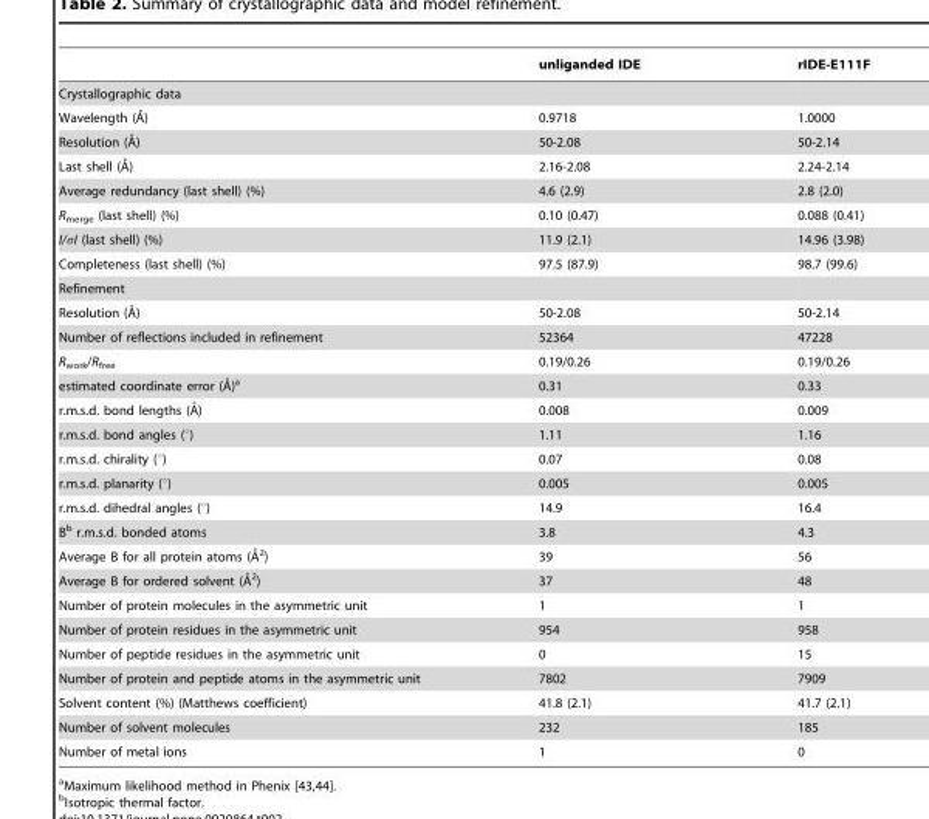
<table><thead><tr><td></td><td>unliganded IDE</td><td>rIDE-E111F</td></tr></thead><tbody><tr><td colspan="3">Crystallographic data</td></tr><tr><td>Wavelength (A˚)</td><td>0.9718</td><td>1.0000</td></tr><tr><td>Resolution (A˚)</td><td>50-2.08</td><td>50-2.14</td></tr><tr><td>Last shell (A˚)</td><td>2.16-2.08</td><td>2.24-2.14</td></tr><tr><td>Average redundancy (last shell) (%)</td><td>4.6 (2.9)</td><td>2.8 (2.0)</td></tr><tr><td>R<sub>merge</sub> (last shell) (%)</td><td>0.10 (0.47)</td><td>0.088 (0.41)</td></tr><tr><td>I/σI (last shell) (%)</td><td>11.9 (2.1)</td><td>14.96 (3.98)</td></tr><tr><td>Completeness (last shell) (%)</td><td>97.5 (87.9)</td><td>98.7 (99.6)</td></tr><tr><td colspan="3">Refinement</td></tr><tr><td>Resolution (A˚)</td><td>50-2.08</td><td>50-2.14</td></tr><tr><td>Number of reflections included in refinement</td><td>52364</td><td>47228</td></tr><tr><td>R<sub>work</sub>/R<sub>free</sub></td><td>0.19/0.26</td><td>0.19/0.26</td></tr><tr><td>estimated coordinate error (A˚)a</td><td>0.31</td><td>0.33</td></tr><tr><td>r.m.s.d. bond lengths (A˚)</td><td>0.008</td><td>0.009</td></tr><tr><td>r.m.s.d. bond angles (°)</td><td>1.11</td><td>1.16</td></tr><tr><td>r.m.s.d. chirality (°)</td><td>0.07</td><td>0.08</td></tr><tr><td>r.m.s.d. planarity (°)</td><td>0.005</td><td>0.005</td></tr><tr><td>r.m.s.d. dihedral angles (°)</td><td>14.9</td><td>16.4</td></tr><tr><td>B<sup>b</sup> r.m.s.d. bonded atoms</td><td>3.8</td><td>4.3</td></tr><tr><td>Average B for all protein atoms (A˚2)</td><td>39</td><td>56</td></tr><tr><td>Average B for ordered solvent (A˚ 2)</td><td>37</td><td>48</td></tr><tr><td>Number of protein molecules in the asymmetric unit</td><td>1</td><td>1</td></tr><tr><td>Number of protein residues in the asymmetric unit</td><td>954</td><td>958</td></tr><tr><td>Number of peptide residues in the asymmetric unit</td><td>0</td><td>15</td></tr><tr><td>Number of protein and peptide atoms in the asymmetric unit</td><td>7802</td><td>7909</td></tr><tr><td>Solvent content (%) (Matthews coefficient)</td><td>41.8 (2.1)</td><td>41.7 (2.1)</td></tr><tr><td>Number of solvent molecules</td><td>232</td><td>185</td></tr><tr><td>Number of metal ions</td><td>1</td><td>0</td></tr></tbody></table>